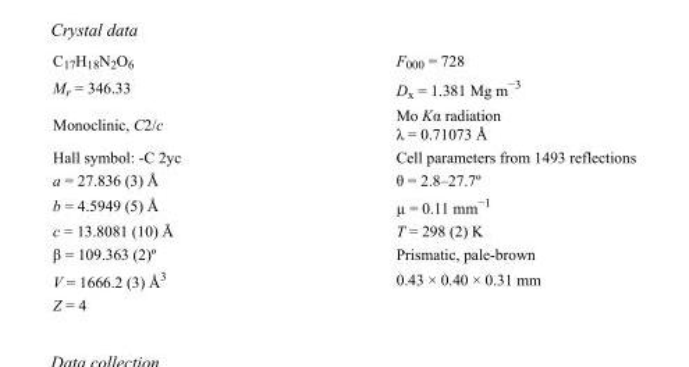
<table><tbody><tr><td>C<sub>17</sub>H<sub>18</sub>N<sub>2</sub>O<sub>6</sub></td><td>F<sub>000</sub> = 728</td></tr><tr><td>M<sub>r</sub> = 346.33</td><td>D<sub>x</sub> = 1.381 Mg m<sup>−3</sup></td></tr><tr><td>Monoclinic, C2/c</td><td>Mo Kα radiation λ = 0.71073 Å</td></tr><tr><td>Hall symbol: -C 2yc</td><td>Cell parameters from 1493 reflections</td></tr><tr><td>a = 27.836 (3) Å</td><td>θ = 2.8–27.7º</td></tr><tr><td>b = 4.5949 (5) Å</td><td>µ = 0.11 mm<sup>−1</sup></td></tr><tr><td>c = 13.8081 (10) Å</td><td>T = 298 (2) K</td></tr><tr><td>β = 109.363 (2)º</td><td>Prismatic, pale-brown</td></tr><tr><td>V = 1666.2 (3) Å<sup>3</sup></td><td>0.43 × 0.40 × 0.31 mm</td></tr><tr><td>Z = 4</td><td></td></tr></tbody></table>